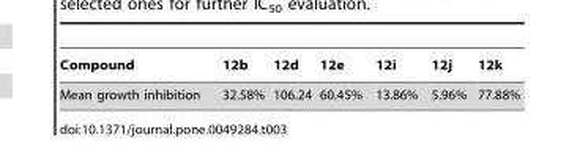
<table><thead><tr><td>Compound</td><td>12b</td><td>12d</td><td>12e</td><td>12i</td><td>12j</td><td>12k</td></tr></thead><tbody><tr><td>Mean growth inhibition</td><td>32.58%</td><td>106.24</td><td>60.45%</td><td>13.86%</td><td>5.96%</td><td>77.88%</td></tr></tbody></table>